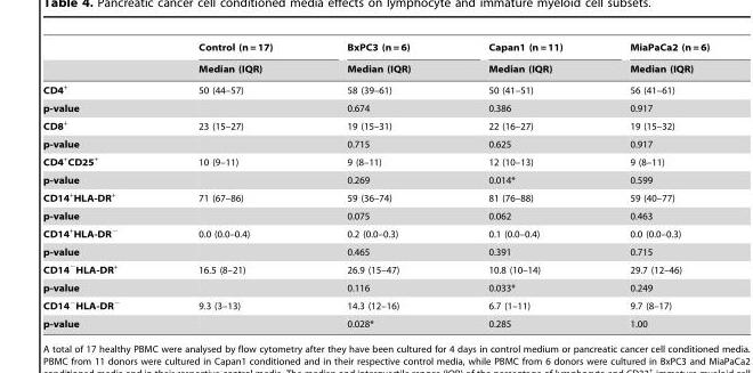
<table><thead><tr><td rowspan="2"></td><td rowspan="2">Control (n = 17) Median (IQR)</td><td rowspan="2">BxPC3 (n = 6) Median (IQR)</td><td rowspan="2">Capan1 (n = 11) Median (IQR)</td><td rowspan="2">MiaPaCa2 (n = 6) Median (IQR)</td></tr><tr></tr></thead><tbody><tr><td>CD4<sup>+</sup></td><td>50 (44–57)</td><td>58 (39–61)</td><td>50 (41–51)</td><td>56 (41–61)</td></tr><tr><td>p-value</td><td></td><td>0.674</td><td>0.386</td><td>0.917</td></tr><tr><td>CD8<sup>+</sup></td><td>23 (15–27)</td><td>19 (15–31)</td><td>22 (16–27)</td><td>19 (15–32)</td></tr><tr><td>p-value</td><td></td><td>0.715</td><td>0.625</td><td>0.917</td></tr><tr><td>CD4<sup>+</sup>CD25<sup>+</sup></td><td>10 (9–11)</td><td>9 (8–11)</td><td>12 (10–13)</td><td>9 (8–11)</td></tr><tr><td>p-value</td><td></td><td>0.269</td><td>0.014*</td><td>0.599</td></tr><tr><td>CD14<sup>+</sup>HLA-DR<sup>+</sup></td><td>71 (67–86)</td><td>59 (36–74)</td><td>81 (76–88)</td><td>59 (40–77)</td></tr><tr><td>p-value</td><td></td><td>0.075</td><td>0.062</td><td>0.463</td></tr><tr><td>CD14<sup>+</sup>HLA-DR<sup>−</sup></td><td>0.0 (0.0–0.4)</td><td>0.2 (0.0–0.3)</td><td>0.1 (0.0–0.4)</td><td>0.0 (0.0–0.3)</td></tr><tr><td>p-value</td><td></td><td>0.465</td><td>0.391</td><td>0.715</td></tr><tr><td>CD14<sup>−</sup>HLA-DR<sup>+</sup></td><td>16.5 (8–21)</td><td>26.9 (15–47)</td><td>10.8 (10–14)</td><td>29.7 (12–46)</td></tr><tr><td>p-value</td><td></td><td>0.116</td><td>0.033*</td><td>0.249</td></tr><tr><td>CD14<sup>−</sup>HLA-DR<sup>−</sup></td><td>9.3 (3–13)</td><td>14.3 (12–16)</td><td>6.7 (1–11)</td><td>9.7 (8–17)</td></tr><tr><td>p-value</td><td></td><td>0.028*</td><td>0.285</td><td>1.00</td></tr></tbody></table>